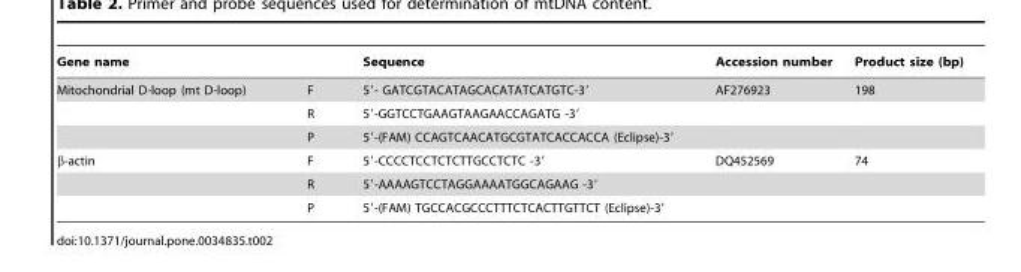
<table><thead><tr><td colspan="2">Gene name</td><td rowspan="2">Sequence 5′- GATCGTACATAGCACATATCATGTC-3′</td><td rowspan="2">Accession number AF276923</td><td rowspan="2">Product size (bp) 198</td></tr><tr><td>Mitochondrial D-loop (mt D-loop)</td><td>F</td></tr></thead><tbody><tr><td></td><td>R</td><td>5′-GGTCCTGAAGTAAGAACCAGATG -3′</td><td></td><td></td></tr><tr><td></td><td>P</td><td>5′-(FAM) CCAGTCAACATGCGTATCACCACCA (Eclipse)-3′</td><td></td><td></td></tr><tr><td rowspan="3">β-actin</td><td>F</td><td>5′-CCCCTCCTCTCTTGCCTCTC -3′</td><td>DQ452569</td><td>74</td></tr><tr><td>R</td><td>5′-AAAAGTCCTAGGAAAATGGCAGAAG -3′</td><td></td><td></td></tr><tr><td>P</td><td>5′-(FAM) TGCCACGCCCTTTCTCACTTGTTCT (Eclipse)-3′</td><td></td><td></td></tr></tbody></table>